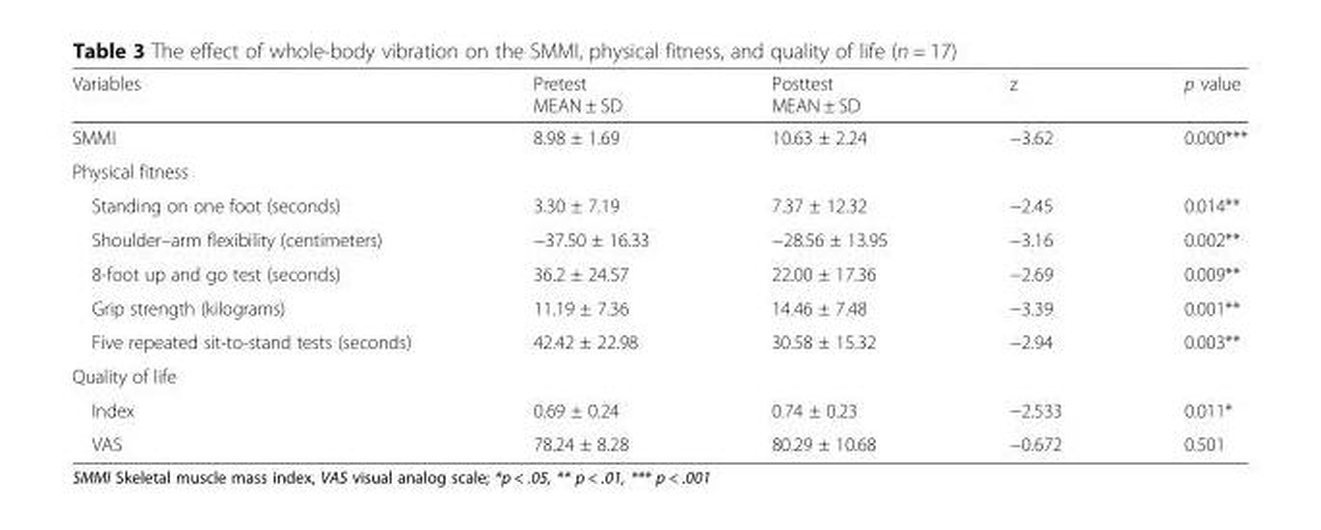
<table><thead><tr><td>Variables</td><td>Pretest MEAN ± SD</td><td>Posttest MEAN ± SD</td><td>z</td><td>p value</td></tr></thead><tbody><tr><td>SMMI</td><td>8.98 ± 1.69</td><td>10.63 ± 2.24</td><td>−3.62</td><td>0.000***</td></tr><tr><td colspan="5">Physical fitness</td></tr><tr><td>Standing on one foot (seconds)</td><td>3.30 ± 7.19</td><td>7.37 ± 12.32</td><td>−2.45</td><td>0.014**</td></tr><tr><td>Shoulder–arm flexibility (centimeters)</td><td>−37.50 ± 16.33</td><td>−28.56 ± 13.95</td><td>−3.16</td><td>0.002**</td></tr><tr><td>8-foot up and go test (seconds)</td><td>36.2 ± 24.57</td><td>22.00 ± 17.36</td><td>−2.69</td><td>0.009**</td></tr><tr><td>Grip strength (kilograms)</td><td>11.19 ± 7.36</td><td>14.46 ± 7.48</td><td>−3.39</td><td>0.001**</td></tr><tr><td>Five repeated sit-to-stand tests (seconds)</td><td>42.42 ± 22.98</td><td>30.58 ± 15.32</td><td>−2.94</td><td>0.003**</td></tr><tr><td colspan="5">Quality of life</td></tr><tr><td>Index</td><td>0.69 ± 0.24</td><td>0.74 ± 0.23</td><td>−2.533</td><td>0.011*</td></tr><tr><td>VAS</td><td>78.24 ± 8.28</td><td>80.29 ± 10.68</td><td>−0.672</td><td>0.501</td></tr></tbody></table>